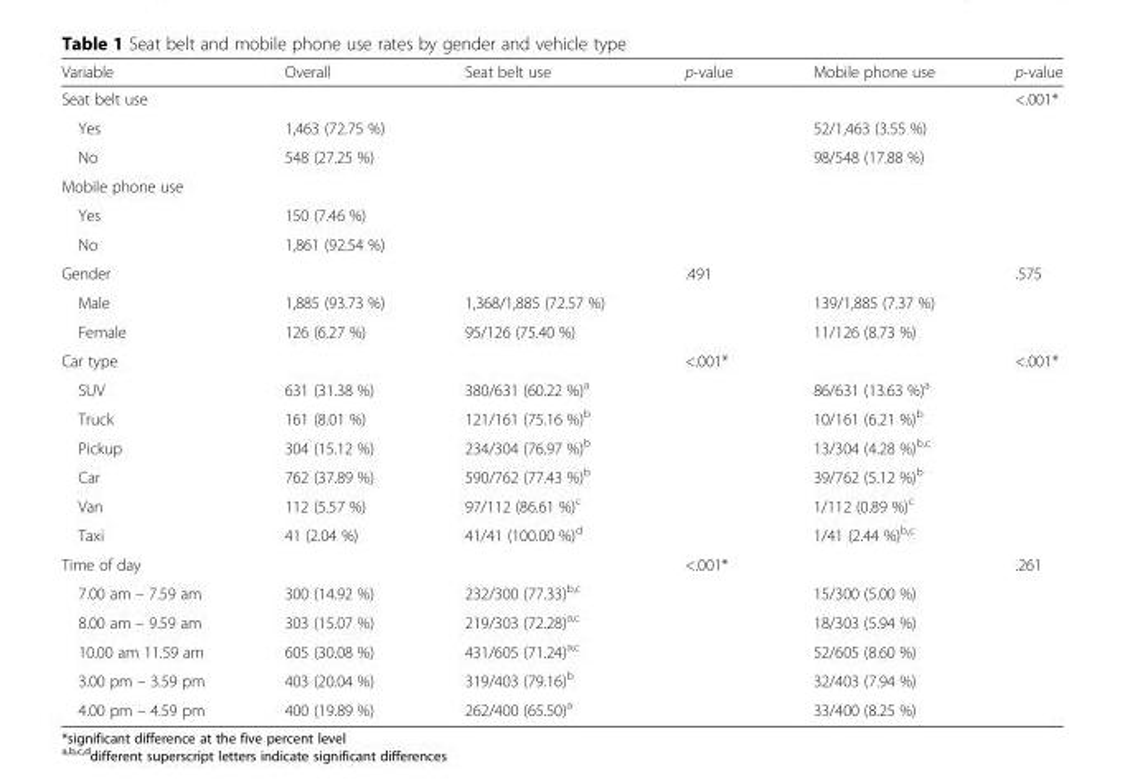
<table><thead><tr><td>Variable</td><td>Overall</td><td>Seat belt use</td><td>p-value</td><td>Mobile phone use</td><td>p-value</td></tr></thead><tbody><tr><td>Seat belt use</td><td></td><td></td><td></td><td></td><td>&lt;.001*</td></tr><tr><td>Yes</td><td>1,463 (72.75 %)</td><td></td><td></td><td>52/1,463 (3.55 %)</td><td></td></tr><tr><td>No</td><td>548 (27.25 %)</td><td></td><td></td><td>98/548 (17.88 %)</td><td></td></tr><tr><td colspan="6">Mobile phone use</td></tr><tr><td>Yes</td><td>150 (7.46 %)</td><td></td><td></td><td></td><td></td></tr><tr><td>No</td><td>1,861 (92.54 %)</td><td></td><td></td><td></td><td></td></tr><tr><td>Gender</td><td></td><td></td><td>.491</td><td></td><td>.575</td></tr><tr><td>Male</td><td>1,885 (93.73 %)</td><td>1,368/1,885 (72.57 %)</td><td></td><td>139/1,885 (7.37 %)</td><td></td></tr><tr><td>Female</td><td>126 (6.27 %)</td><td>95/126 (75.40 %)</td><td></td><td>11/126 (8.73 %)</td><td></td></tr><tr><td>Car type</td><td></td><td></td><td>&lt;.001*</td><td></td><td>&lt;.001*</td></tr><tr><td>SUV</td><td>631 (31.38 %)</td><td>380/631 (60.22 %)<sup>a</sup></td><td></td><td>86/631 (13.63 %)<sup>a</sup></td><td></td></tr><tr><td>Truck</td><td>161 (8.01 %)</td><td>121/161 (75.16 %)<sup>b</sup></td><td></td><td>10/161 (6.21 %)<sup>b</sup></td><td></td></tr><tr><td>Pickup</td><td>304 (15.12 %)</td><td>234/304 (76.97 %)<sup>b</sup></td><td></td><td>13/304 (4.28 %)<sup>b,c</sup></td><td></td></tr><tr><td>Car</td><td>762 (37.89 %)</td><td>590/762 (77.43 %)<sup>b</sup></td><td></td><td>39/762 (5.12 %)<sup>b</sup></td><td></td></tr><tr><td>Van</td><td>112 (5.57 %)</td><td>97/112 (86.61 %)<sup>c</sup></td><td></td><td>1/112 (0.89 %)<sup>c</sup></td><td></td></tr><tr><td>Taxi</td><td>41 (2.04 %)</td><td>41/41 (100.00 %)<sup>d</sup></td><td></td><td>1/41 (2.44 %)<sup>b,c</sup></td><td></td></tr><tr><td>Time of day</td><td></td><td></td><td>&lt;.001*</td><td></td><td>.261</td></tr><tr><td>7.00 am – 7.59 am</td><td>300 (14.92 %)</td><td>232/300 (77.33)<sup>b,c</sup></td><td></td><td>15/300 (5.00 %)</td><td></td></tr><tr><td>8.00 am – 9.59 am</td><td>303 (15.07 %)</td><td>219/303 (72.28)<sup>a,c</sup></td><td></td><td>18/303 (5.94 %)</td><td></td></tr><tr><td>10.00 am 11.59 am</td><td>605 (30.08 %)</td><td>431/605 (71.24)<sup>a,c</sup></td><td></td><td>52/605 (8.60 %)</td><td></td></tr><tr><td>3.00 pm – 3.59 pm</td><td>403 (20.04 %)</td><td>319/403 (79.16)<sup>b</sup></td><td></td><td>32/403 (7.94 %)</td><td></td></tr><tr><td>4.00 pm – 4.59 pm</td><td>400 (19.89 %)</td><td>262/400 (65.50)<sup>a</sup></td><td></td><td>33/400 (8.25 %)</td><td></td></tr></tbody></table>